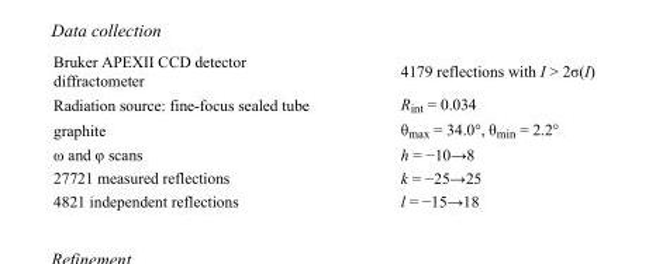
<table><tbody><tr><td>Bruker APEXII CCD detector diffractometer</td><td>4179 reflections with I &gt; 2σ(I)</td></tr><tr><td>Radiation source: fine-focus sealed tube</td><td>R<sub>int</sub> = 0.034</td></tr><tr><td>graphite</td><td>θ<sub>max</sub> = 34.0°, θ<sub>min</sub> = 2.2°</td></tr><tr><td>ω and φ scans</td><td>h = −10→8</td></tr><tr><td>27721 measured reflections</td><td>k = −25→25</td></tr><tr><td>4821 independent reflections</td><td>l = −15→18</td></tr></tbody></table>